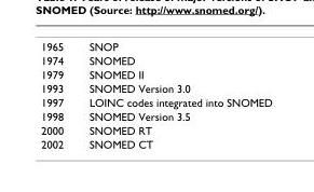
<table><tbody><tr><td>1965</td><td>SNOP</td></tr><tr><td>1974</td><td>SNOMED</td></tr><tr><td>1979</td><td>SNOMED II</td></tr><tr><td>1993</td><td>SNOMED Version 3.0</td></tr><tr><td>1997</td><td>LOINC codes integrated into SNOMED</td></tr><tr><td>1998</td><td>SNOMED Version 3.5</td></tr><tr><td>2000</td><td>SNOMED RT</td></tr><tr><td>2002</td><td>SNOMED CT</td></tr></tbody></table>